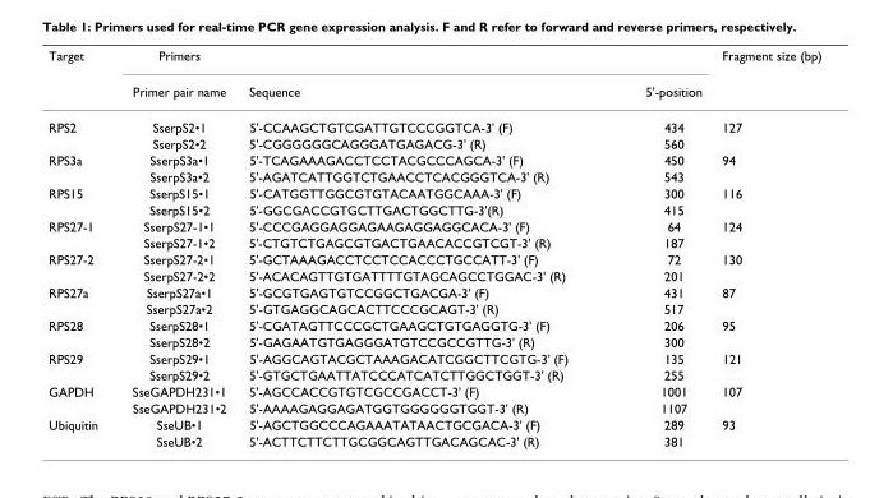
<table><thead><tr><td rowspan="2">Target</td><td rowspan="2">Primers Primer pair name</td><td rowspan="2">Sequence</td><td rowspan="2">5&#x27;-position</td><td rowspan="2">Fragment size (bp)</td></tr><tr></tr></thead><tbody><tr><td rowspan="2">RPS2</td><td>SserpS2•1</td><td>5&#x27;-CCAAGCTGTCGATTGTCCCGGTCA-3&#x27; (F)</td><td>434</td><td>127</td></tr><tr><td>SserpS2•2</td><td>5&#x27;-CGGGGGGCAGGGATGAGACG-3&#x27; (R)</td><td>560</td><td></td></tr><tr><td rowspan="2">RPS3a</td><td>SserpS3a•1</td><td>5&#x27;-TCAGAAAGACCTCCTACGCCCAGCA-3&#x27; (F)</td><td>450</td><td>94</td></tr><tr><td>SserpS3a•2</td><td>5&#x27;-AGATCATTGGTCTGAACCTCACGGGTCA-3&#x27; (R)</td><td>543</td><td></td></tr><tr><td rowspan="2">RPS15</td><td>SserpS15•1</td><td>5&#x27;-CATGGTTGGCGTGTACAATGGCAAA-3&#x27; (F)</td><td>300</td><td>116</td></tr><tr><td>SserpS15•2</td><td>5&#x27;-GGCGACCGTGCTTGACTGGCTTG-3&#x27;(R)</td><td>415</td><td></td></tr><tr><td rowspan="2">RPS27-1</td><td>SserpS27-1•1</td><td>5&#x27;-CCCGAGGAGGAGAAGAGGAGGCACA-3&#x27; (F)</td><td>64</td><td>124</td></tr><tr><td>SserpS27-1•2</td><td>5&#x27;-CTGTCTGAGCGTGACTGAACACCGTCGT-3&#x27; (R)</td><td>187</td><td></td></tr><tr><td rowspan="2">RPS27-2</td><td>SserpS27-2•1</td><td>5&#x27;-GCTAAAGACCTCCTCCACCCTGCCATT-3&#x27; (F)</td><td>72</td><td>130</td></tr><tr><td>SserpS27-2•2</td><td>5&#x27;-ACACAGTTGTGATTTTGTAGCAGCCTGGAC-3&#x27; (R)</td><td>201</td><td></td></tr><tr><td rowspan="2">RPS27a</td><td>SserpS27a•1</td><td>5&#x27;-GCGTGAGTGTCCGGCTGACGA-3&#x27; (F)</td><td>431</td><td>87</td></tr><tr><td>SserpS27a•2</td><td>5&#x27;-GTGAGGCAGCACTTCCCGCAGT-3&#x27; (R)</td><td>517</td><td></td></tr><tr><td rowspan="2">RPS28</td><td>SserpS28•1</td><td>5&#x27;-CGATAGTTCCCGCTGAAGCTGTGAGGTG-3&#x27; (F)</td><td>206</td><td>95</td></tr><tr><td>SserpS28•2</td><td>5&#x27;-GAGAATGTGAGGGATGTCCGCCGTTG-3&#x27; (R)</td><td>300</td><td></td></tr><tr><td rowspan="2">RPS29</td><td>SserpS29•1</td><td>5&#x27;-AGGCAGTACGCTAAAGACATCGGCTTCGTG-3&#x27; (F)</td><td>135</td><td>121</td></tr><tr><td>SserpS29•2</td><td>5&#x27;-GTGCTGAATTATCCCATCATCTTGGCTGGT-3&#x27; (R)</td><td>255</td><td></td></tr><tr><td rowspan="2">GAPDH</td><td>SseGAPDH231•1</td><td>5&#x27;-AGCCACCGTGTCGCCGACCT-3&#x27; (F)</td><td>1001</td><td>107</td></tr><tr><td>SseGAPDH231•2</td><td>5&#x27;-AAAAGAGGAGATGGTGGGGGGTGGT-3&#x27; (R)</td><td>1107</td><td></td></tr><tr><td rowspan="2">Ubiquitin</td><td>SseUB•1</td><td>5&#x27;-AGCTGGCCCAGAAATATAACTGCGACA-3&#x27; (F)</td><td>289</td><td>93</td></tr><tr><td>SseUB•2</td><td>5&#x27;-ACTTCTTCTTGCGGCAGTTGACAGCAC-3&#x27; (R)</td><td>381</td><td></td></tr></tbody></table>